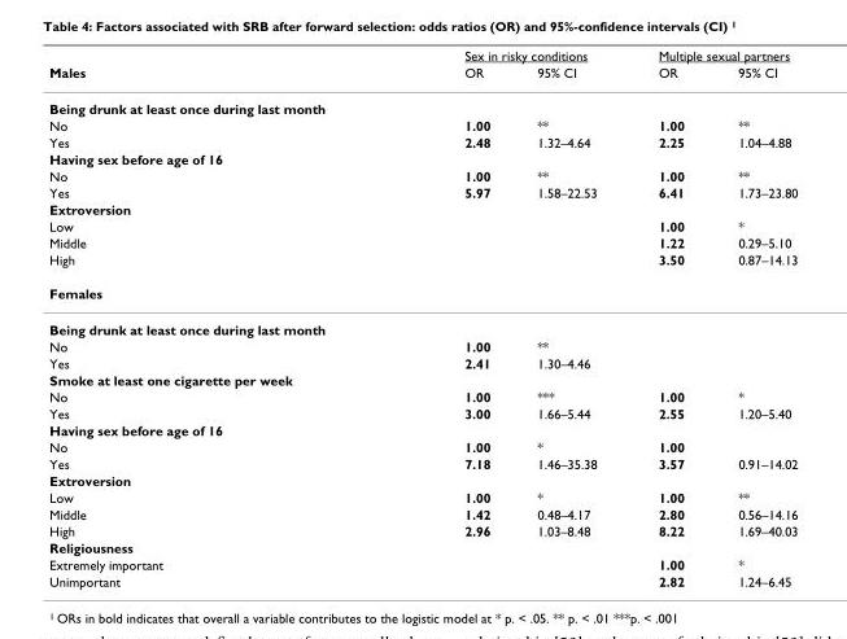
<table><thead><tr><td rowspan="2">Males</td><td colspan="2">Sex in risky conditions</td><td colspan="2">Multiple sexual partners</td></tr><tr><td>OR</td><td>95% CI</td><td>OR</td><td>95% CI</td></tr></thead><tbody><tr><td colspan="5">Being drunk at least once during last month</td></tr><tr><td>No</td><td>1.00</td><td>**</td><td>1.00</td><td>**</td></tr><tr><td>Yes</td><td>2.48</td><td>1.32–4.64</td><td>2.25</td><td>1.04–4.88</td></tr><tr><td colspan="5">Having sex before age of 16</td></tr><tr><td>No</td><td>1.00</td><td>**</td><td>1.00</td><td>**</td></tr><tr><td>Yes</td><td>5.97</td><td>1.58–22.53</td><td>6.41</td><td>1.73–23.80</td></tr><tr><td colspan="5">Extroversion</td></tr><tr><td>Low</td><td></td><td></td><td>1.00</td><td>*</td></tr><tr><td>Middle</td><td></td><td></td><td>1.22</td><td>0.29–5.10</td></tr><tr><td>High</td><td></td><td></td><td>3.50</td><td>0.87–14.13</td></tr><tr><td colspan="5">Females</td></tr><tr><td colspan="5">Being drunk at least once during last month</td></tr><tr><td>No</td><td>1.00</td><td>**</td><td></td><td></td></tr><tr><td>Yes</td><td>2.41</td><td>1.30–4.46</td><td></td><td></td></tr><tr><td colspan="5">Smoke at least one cigarette per week</td></tr><tr><td>No</td><td>1.00</td><td>***</td><td>1.00</td><td>*</td></tr><tr><td>Yes</td><td>3.00</td><td>1.66–5.44</td><td>2.55</td><td>1.20–5.40</td></tr><tr><td colspan="5">Having sex before age of 16</td></tr><tr><td>No</td><td>1.00</td><td>*</td><td>1.00</td><td></td></tr><tr><td>Yes</td><td>7.18</td><td>1.46–35.38</td><td>3.57</td><td>0.91–14.02</td></tr><tr><td colspan="5">Extroversion</td></tr><tr><td>Low</td><td>1.00</td><td>*</td><td>1.00</td><td>**</td></tr><tr><td>Middle</td><td>1.42</td><td>0.48–4.17</td><td>2.80</td><td>0.56–14.16</td></tr><tr><td>High</td><td>2.96</td><td>1.03–8.48</td><td>8.22</td><td>1.69–40.03</td></tr><tr><td colspan="5">Religiousness</td></tr><tr><td>Extremely important</td><td></td><td></td><td>1.00</td><td>*</td></tr><tr><td>Unimportant</td><td></td><td></td><td>2.82</td><td>1.24–6.45</td></tr></tbody></table>